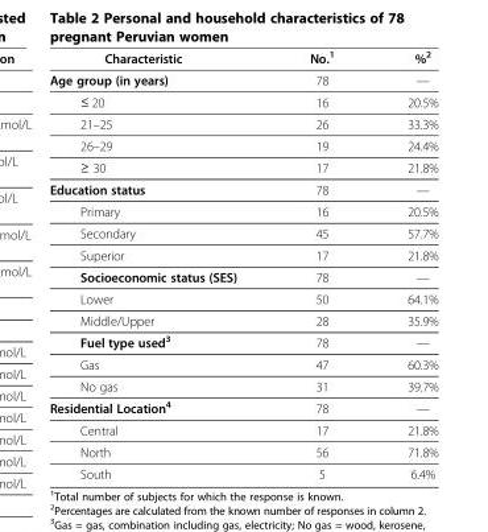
<table><thead><tr><td>Characteristic</td><td>No.<sup>1</sup></td><td>%<sup>2</sup></td></tr></thead><tbody><tr><td>Age group (in years)</td><td>78</td><td>—</td></tr><tr><td>≤ 20</td><td>16</td><td>20.5%</td></tr><tr><td>21–25</td><td>26</td><td>33.3%</td></tr><tr><td>26–29</td><td>19</td><td>24.4%</td></tr><tr><td>≥ 30</td><td>17</td><td>21.8%</td></tr><tr><td>Education status</td><td>78</td><td>—</td></tr><tr><td>Primary</td><td>16</td><td>20.5%</td></tr><tr><td>Secondary</td><td>45</td><td>57.7%</td></tr><tr><td>Superior</td><td>17</td><td>21.8%</td></tr><tr><td>Socioeconomic status (SES)</td><td>78</td><td>—</td></tr><tr><td>Lower</td><td>50</td><td>64.1%</td></tr><tr><td>Middle/Upper</td><td>28</td><td>35.9%</td></tr><tr><td>Fuel type used<sup>3</sup></td><td>78</td><td>—</td></tr><tr><td>Gas</td><td>47</td><td>60.3%</td></tr><tr><td>No gas</td><td>31</td><td>39.7%</td></tr><tr><td>Residential Location<sup>4</sup></td><td>78</td><td>—</td></tr><tr><td>Central</td><td>17</td><td>21.8%</td></tr><tr><td>North</td><td>56</td><td>71.8%</td></tr><tr><td>South</td><td>5</td><td>6.4%</td></tr></tbody></table>